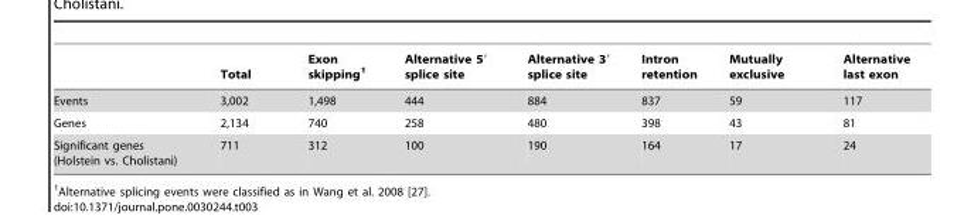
<table><thead><tr><td></td><td>Total</td><td>Exon skipping<sup>1</sup></td><td>Alternative 5′ splice site</td><td>Alternative 3′ splice site</td><td>Intron retention</td><td>Mutually exclusive</td><td>Alternative last exon</td></tr></thead><tbody><tr><td>Events</td><td>3,002</td><td>1,498</td><td>444</td><td>884</td><td>837</td><td>59</td><td>117</td></tr><tr><td>Genes</td><td>2,134</td><td>740</td><td>258</td><td>480</td><td>398</td><td>43</td><td>81</td></tr><tr><td>Significant genes (Holstein vs. Cholistani)</td><td>711</td><td>312</td><td>100</td><td>190</td><td>164</td><td>17</td><td>24</td></tr></tbody></table>